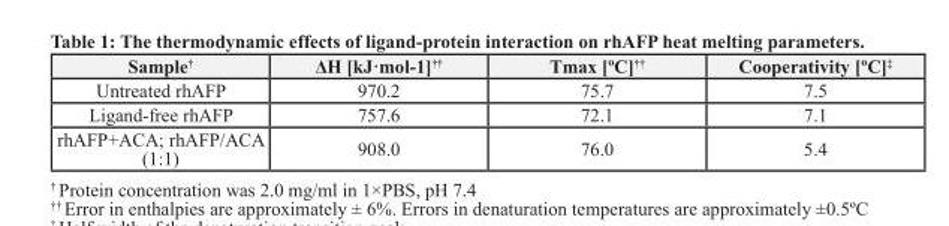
<table><thead><tr><td>Sample<sup>†</sup></td><td>ΔH [kJ·mol-1]<sup>††</sup></td><td>Tmax [ºC]<sup>††</sup></td><td>Cooperativity [ºC]<sup>‡</sup></td></tr></thead><tbody><tr><td>Untreated rhAFP</td><td>970.2</td><td>75.7</td><td>7.5</td></tr><tr><td>Ligand-free rhAFP</td><td>757.6</td><td>72.1</td><td>7.1</td></tr><tr><td>rhAFP+ACA; rhAFP/ACA (1:1)</td><td>908.0</td><td>76.0</td><td>5.4</td></tr></tbody></table>